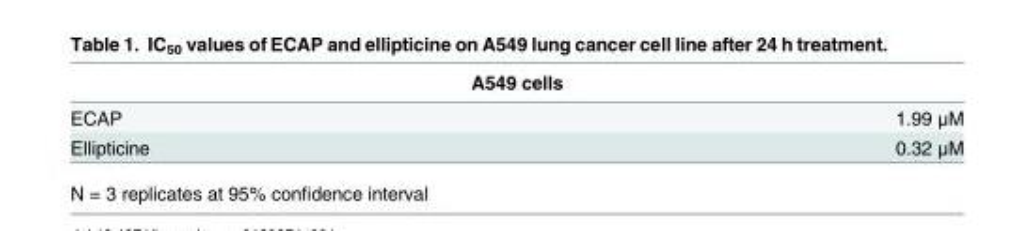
<table><thead><tr><td colspan="2">A549 cells</td></tr><tr><td>ECAP</td><td>1.99 μM</td></tr></thead><tbody><tr><td>Ellipticine</td><td>0.32 μM</td></tr></tbody></table>